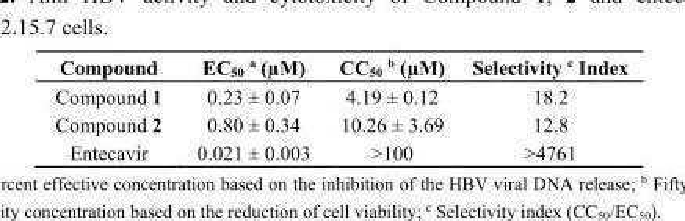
<table><thead><tr><td>Compound</td><td>EC<sub>50</sub> <sup>a</sup> (µM)</td><td>CC<sub>50</sub> <sup>b</sup> (µM)</td><td>Selectivity <sup>c</sup> Index</td></tr></thead><tbody><tr><td>Compound 1</td><td>0.23 ± 0.07</td><td>4.19 ± 0.12</td><td>18.2</td></tr><tr><td>Compound 2</td><td>0.80 ± 0.34</td><td>10.26 ± 3.69</td><td>12.8</td></tr><tr><td>Entecavir</td><td>0.021 ± 0.003</td><td>&gt;100</td><td>&gt;4761</td></tr></tbody></table>